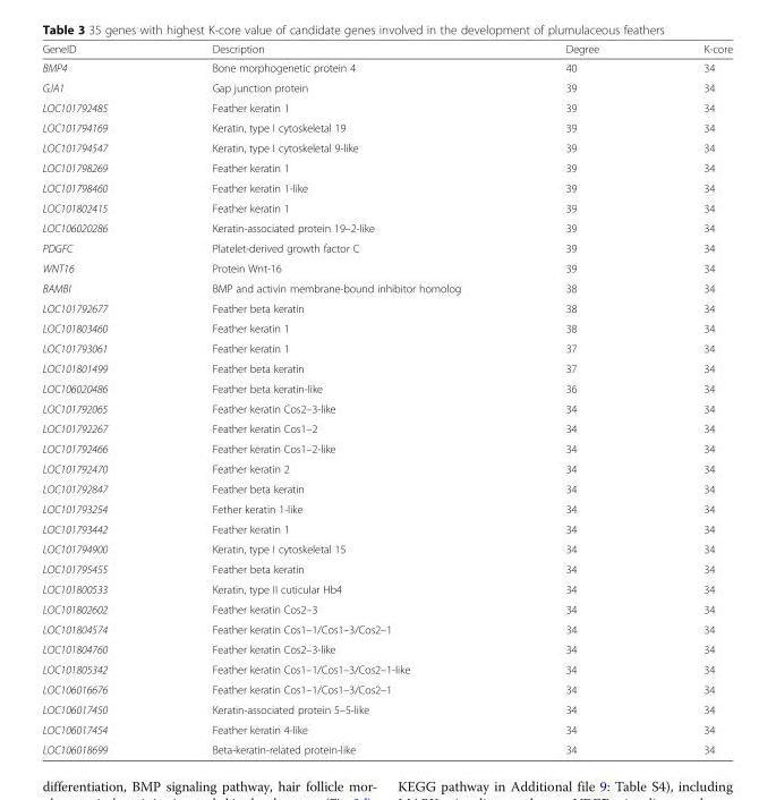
<table><thead><tr><td>GeneID</td><td>Description</td><td>Degree</td><td>K-core</td></tr></thead><tbody><tr><td>BMP4</td><td>Bone morphogenetic protein 4</td><td>40</td><td>34</td></tr><tr><td>GJA1</td><td>Gap junction protein</td><td>39</td><td>34</td></tr><tr><td>LOC101792485</td><td>Feather keratin 1</td><td>39</td><td>34</td></tr><tr><td>LOC101794169</td><td>Keratin, type I cytoskeletal 19</td><td>39</td><td>34</td></tr><tr><td>LOC101794547</td><td>Keratin, type I cytoskeletal 9-like</td><td>39</td><td>34</td></tr><tr><td>LOC101798269</td><td>Feather keratin 1</td><td>39</td><td>34</td></tr><tr><td>LOC101798460</td><td>Feather keratin 1-like</td><td>39</td><td>34</td></tr><tr><td>LOC101802415</td><td>Feather keratin 1</td><td>39</td><td>34</td></tr><tr><td>LOC106020286</td><td>Keratin-associated protein 19–2-like</td><td>39</td><td>34</td></tr><tr><td>PDGFC</td><td>Platelet-derived growth factor C</td><td>39</td><td>34</td></tr><tr><td>WNT16</td><td>Protein Wnt-16</td><td>39</td><td>34</td></tr><tr><td>BAMBI</td><td>BMP and activin membrane-bound inhibitor homolog</td><td>38</td><td>34</td></tr><tr><td>LOC101792677</td><td>Feather beta keratin</td><td>38</td><td>34</td></tr><tr><td>LOC101803460</td><td>Feather keratin 1</td><td>38</td><td>34</td></tr><tr><td>LOC101793061</td><td>Feather keratin 1</td><td>37</td><td>34</td></tr><tr><td>LOC101801499</td><td>Feather beta keratin</td><td>37</td><td>34</td></tr><tr><td>LOC106020486</td><td>Feather beta keratin-like</td><td>36</td><td>34</td></tr><tr><td>LOC101792065</td><td>Feather keratin Cos2–3-like</td><td>34</td><td>34</td></tr><tr><td>LOC101792267</td><td>Feather keratin Cos1–2</td><td>34</td><td>34</td></tr><tr><td>LOC101792466</td><td>Feather keratin Cos1–2-like</td><td>34</td><td>34</td></tr><tr><td>LOC101792470</td><td>Feather keratin 2</td><td>34</td><td>34</td></tr><tr><td>LOC101792847</td><td>Feather beta keratin</td><td>34</td><td>34</td></tr><tr><td>LOC101793254</td><td>Fether keratin 1-like</td><td>34</td><td>34</td></tr><tr><td>LOC101793442</td><td>Feather keratin 1</td><td>34</td><td>34</td></tr><tr><td>LOC101794900</td><td>Keratin, type I cytoskeletal 15</td><td>34</td><td>34</td></tr><tr><td>LOC101795455</td><td>Feather beta keratin</td><td>34</td><td>34</td></tr><tr><td>LOC101800533</td><td>Keratin, type II cuticular Hb4</td><td>34</td><td>34</td></tr><tr><td>LOC101802602</td><td>Feather keratin Cos2–3</td><td>34</td><td>34</td></tr><tr><td>LOC101804574</td><td>Feather keratin Cos1–1/Cos1–3/Cos2–1</td><td>34</td><td>34</td></tr><tr><td>LOC101804760</td><td>Feather keratin Cos2–3-like</td><td>34</td><td>34</td></tr><tr><td>LOC101805342</td><td>Feather keratin Cos1–1/Cos1–3/Cos2–1-like</td><td>34</td><td>34</td></tr><tr><td>LOC106016676</td><td>Feather keratin Cos1–1/Cos1–3/Cos2–1</td><td>34</td><td>34</td></tr><tr><td>LOC106017450</td><td>Keratin-associated protein 5–5-like</td><td>34</td><td>34</td></tr><tr><td>LOC106017454</td><td>Feather keratin 4-like</td><td>34</td><td>34</td></tr><tr><td>LOC106018699</td><td>Beta-keratin-related protein-like</td><td>34</td><td>34</td></tr></tbody></table>